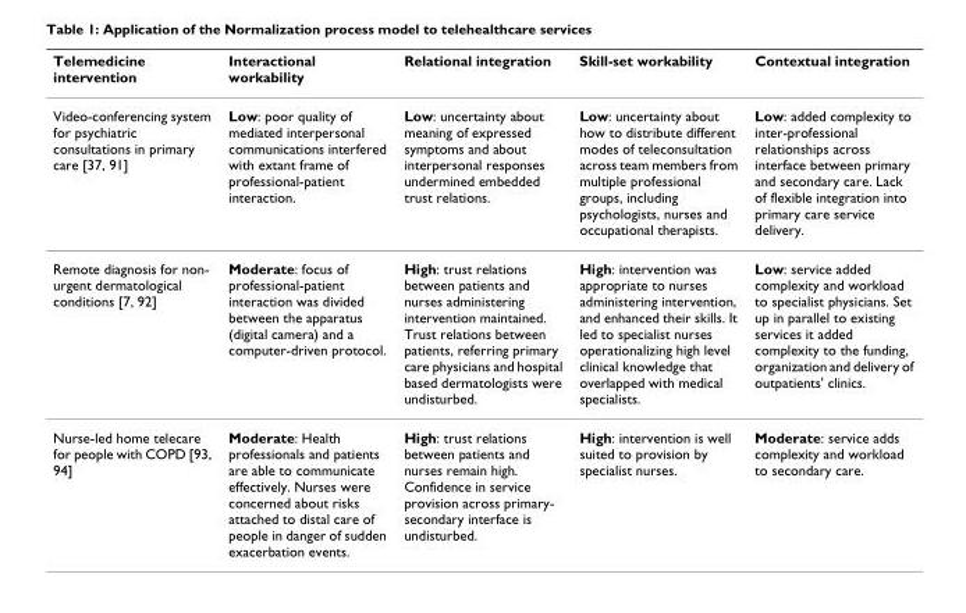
<table><thead><tr><td>Telemedicine intervention</td><td>Interactional workability</td><td>Relational integration</td><td>Skill-set workability</td><td>Contextual integration</td></tr></thead><tbody><tr><td>Video-conferencing system for psychiatric consultations in primary care [37, 91]</td><td>Low: poor quality of mediated interpersonal communications interfered with extant frame of professional-patient interaction.</td><td>Low: uncertainty about meaning of expressed symptoms and about interpersonal responses undermined embedded trust relations.</td><td>Low: uncertainty about how to distribute different modes of teleconsultation across team members from multiple professional groups, including psychologists, nurses and occupational therapists.</td><td>Low: added complexity to inter-professional relationships across interface between primary and secondary care. Lack of flexible integration into primary care service delivery.</td></tr><tr><td>Remote diagnosis for non- urgent dermatological conditions [7, 92]</td><td>Moderate: focus of professional-patient interaction was divided between the apparatus (digital camera) and a computer-driven protocol.</td><td>High: trust relations between patients and nurses administering intervention maintained. Trust relations between patients, referring primary care physicians and hospital based dermatologists were undisturbed.</td><td>High: intervention was appropriate to nurses administering intervention, and enhanced their skills. It led to specialist nurses operationalizing high level clinical knowledge that overlapped with medical specialists.</td><td>Low: service added complexity and workload to specialist physicians. Set up in parallel to existing services it added complexity to the funding, organization and delivery of outpatients&#x27; clinics.</td></tr><tr><td>Nurse-led home telecare for people with COPD [93, 94]</td><td>Moderate: Health professionals and patients are able to communicate effectively. Nurses were concerned about risks attached to distal care of people in danger of sudden exacerbation events.</td><td>High: trust relations between patients and nurses remain high. Confidence in service provision across primary- secondary interface is undisturbed.</td><td>High: intervention is well suited to provision by specialist nurses.</td><td>Moderate: service adds complexity and workload to secondary care.</td></tr></tbody></table>